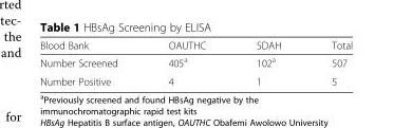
<table><thead><tr><td>Blood Bank</td><td>OAUTHC</td><td>SDAH</td><td>Total</td></tr></thead><tbody><tr><td>Number Screened</td><td>405<sup>a</sup></td><td>102<sup>a</sup></td><td>507</td></tr><tr><td>Number Positive</td><td>4</td><td>1</td><td>5</td></tr></tbody></table>